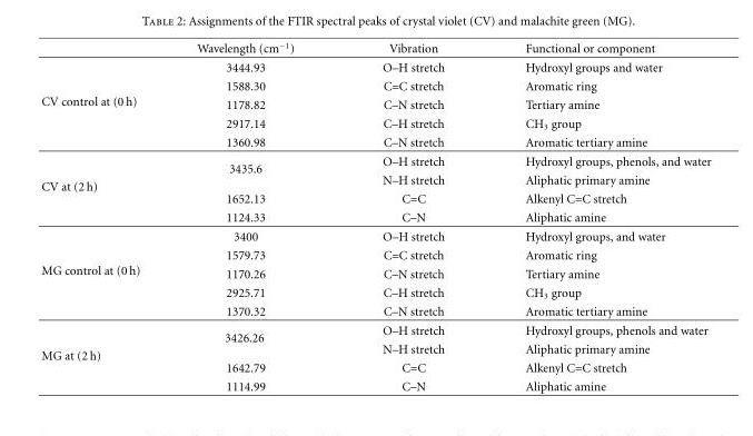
<table><thead><tr><td></td><td>Wavelength (cm<sup>−1</sup>)</td><td>Vibration</td><td>Functional or component</td></tr></thead><tbody><tr><td rowspan="5">CV control at (0 h)</td><td>3444.93</td><td>O–H stretch</td><td>Hydroxyl groups and water</td></tr><tr><td>1588.30</td><td>C=C stretch</td><td>Aromatic ring</td></tr><tr><td>1178.82</td><td>C–N stretch</td><td>Tertiary amine</td></tr><tr><td>2917.14</td><td>C–H stretch</td><td>CH<sub>3</sub> group</td></tr><tr><td>1360.98</td><td>C–N stretch</td><td>Aromatic tertiary amine</td></tr><tr><td rowspan="4">CV at (2 h)</td><td rowspan="2">3435.6</td><td>O–H stretch</td><td>Hydroxyl groups, phenols, and water</td></tr><tr><td>N–H stretch</td><td>Aliphatic primary amine</td></tr><tr><td>1652.13</td><td>C=C</td><td>Alkenyl C=C stretch</td></tr><tr><td>1124.33</td><td>C–N</td><td>Aliphatic amine</td></tr><tr><td rowspan="5">MG control at (0 h)</td><td>3400</td><td>O–H stretch</td><td>Hydroxyl groups, and water</td></tr><tr><td>1579.73</td><td>C=C stretch</td><td>Aromatic ring</td></tr><tr><td>1170.26</td><td>C–N stretch</td><td>Tertiary amine</td></tr><tr><td>2925.71</td><td>C–H stretch</td><td>CH<sub>3</sub> group</td></tr><tr><td>1370.32</td><td>C–N stretch</td><td>Aromatic tertiary amine</td></tr><tr><td rowspan="4">MG at (2 h)</td><td rowspan="2">3426.26</td><td>O–H stretch</td><td>Hydroxyl groups, phenols and water</td></tr><tr><td>N–H stretch</td><td>Aliphatic primary amine</td></tr><tr><td>1642.79</td><td>C=C</td><td>Alkenyl C=C stretch</td></tr><tr><td>1114.99</td><td>C–N</td><td>Aliphatic amine</td></tr></tbody></table>